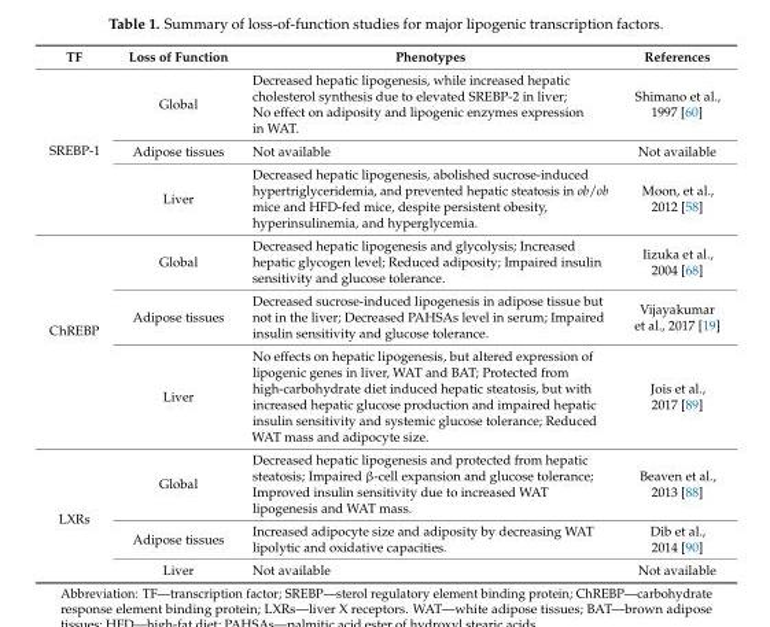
<table><thead><tr><td>TF</td><td>Loss of Function</td><td>Phenotypes</td><td>References</td></tr></thead><tbody><tr><td rowspan="3">SREBP-1</td><td>Global</td><td>Decreased hepatic lipogenesis, while increased hepatic cholesterol synthesis due to elevated SREBP-2 in liver; No effect on adiposity and lipogenic enzymes expression in WAT.</td><td>Shimano et al., 1997 [60]</td></tr><tr><td>Adipose tissues</td><td>Not available</td><td>Not available</td></tr><tr><td>Liver</td><td>Decreased hepatic lipogenesis, abolished sucrose-induced hypertriglyceridemia, and prevented hepatic steatosis in ob/ob mice and HFD-fed mice, despite persistent obesity, hyperinsulinemia, and hyperglycemia.</td><td>Moon, et al., 2012 [58]</td></tr><tr><td rowspan="3">ChREBP</td><td>Global</td><td>Decreased hepatic lipogenesis and glycolysis; Increased hepatic glycogen level; Reduced adiposity; Impaired insulin sensitivity and glucose tolerance.</td><td>Iizuka et al., 2004 [68]</td></tr><tr><td>Adipose tissues</td><td>Decreased sucrose-induced lipogenesis in adipose tissue but not in the liver; Decreased PAHSAs level in serum; Impaired insulin sensitivity and glucose tolerance.</td><td>Vijayakumar et al., 2017 [19]</td></tr><tr><td>Liver</td><td>No effects on hepatic lipogenesis, but altered expression of lipogenic genes in liver, WAT and BAT; Protected from high-carbohydrate diet induced hepatic steatosis, but with increased hepatic glucose production and impaired hepatic insulin sensitivity and systemic glucose tolerance; Reduced WAT mass and adipocyte size.</td><td>Jois et al., 2017 [89]</td></tr><tr><td rowspan="3">LXRs</td><td>Global</td><td>Decreased hepatic lipogenesis and protected from hepatic steatosis; Impaired β-cell expansion and glucose tolerance; Improved insulin sensitivity due to increased WAT lipogenesis and WAT mass.</td><td>Beaven et al., 2013 [88]</td></tr><tr><td>Adipose tissues</td><td>Increased adipocyte size and adiposity by decreasing WAT lipolytic and oxidative capacities.</td><td>Dib et al., 2014 [90]</td></tr><tr><td>Liver</td><td>Not available</td><td>Not available</td></tr></tbody></table>